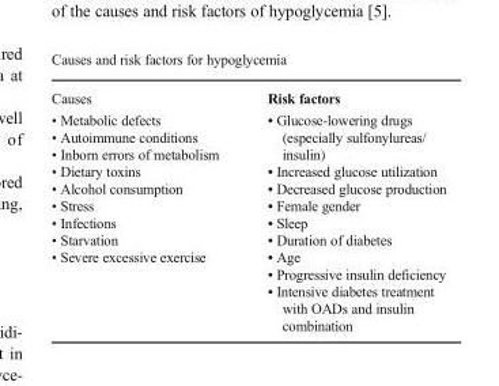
<table><thead><tr><td colspan="2">Causes and risk factors for hypoglycemia</td></tr><tr><td>Causes</td><td>Risk factors</td></tr></thead><tbody><tr><td>• Metabolic defects • Autoimmune conditions • Inborn errors of metabolism • Dietary toxins • Alcohol consumption • Stress • Infections • Starvation • Severe excessive exercise</td><td>• Glucose-lowering drugs (especially sulfonylureas/ insulin) • Increased glucose utilization • Decreased glucose production • Female gender • Sleep • Duration of diabetes • Age • Progressive insulin deficiency • Intensive diabetes treatment with OADs and insulin combination</td></tr></tbody></table>